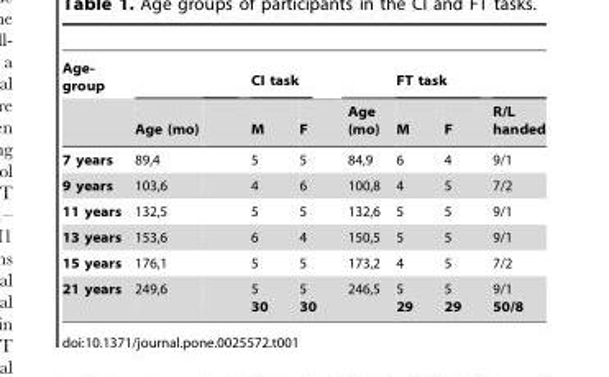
<table><thead><tr><td rowspan="2">Age- group</td><td rowspan="2">Age (mo)</td><td colspan="2">CI task</td><td rowspan="2">Age (mo)</td><td colspan="2">FT task</td><td rowspan="2">R/L handed</td></tr><tr><td>M</td><td>F</td><td>M</td><td>F</td></tr></thead><tbody><tr><td>7 years</td><td>89,4</td><td>5</td><td>5</td><td>84,9</td><td>6</td><td>4</td><td>9/1</td></tr><tr><td>9 years</td><td>103,6</td><td>4</td><td>6</td><td>100,8</td><td>4</td><td>5</td><td>7/2</td></tr><tr><td>11 years</td><td>132,5</td><td>5</td><td>5</td><td>132,6</td><td>5</td><td>5</td><td>9/1</td></tr><tr><td>13 years</td><td>153,6</td><td>6</td><td>4</td><td>150,5</td><td>5</td><td>5</td><td>9/1</td></tr><tr><td>15 years</td><td>176,1</td><td>5</td><td>5</td><td>173,2</td><td>4</td><td>5</td><td>7/2</td></tr><tr><td>21 years</td><td>249,6</td><td>5 30</td><td>5 30</td><td>246,5</td><td>5 29</td><td>5 29</td><td>9/1 50/8</td></tr></tbody></table>